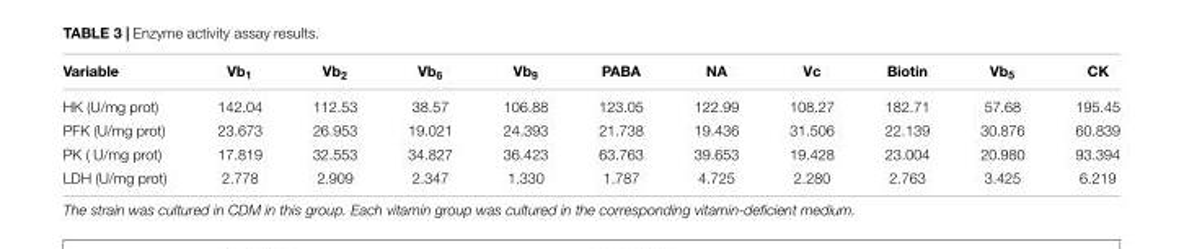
<table><thead><tr><td>Variable</td><td>Vb<sub>1</sub></td><td>Vb<sub>2</sub></td><td>Vb<sub>6</sub></td><td>Vb<sub>9</sub></td><td>PABA</td><td>NA</td><td>Vc</td><td>Biotin</td><td>Vb<sub>5</sub></td><td>CK</td></tr></thead><tbody><tr><td>HK (U/mg prot)</td><td>142.04</td><td>112.53</td><td>38.57</td><td>106.88</td><td>123.05</td><td>122.99</td><td>108.27</td><td>182.71</td><td>57.68</td><td>195.45</td></tr><tr><td>PFK (U/mg prot)</td><td>23.673</td><td>26.953</td><td>19.021</td><td>24.393</td><td>21.738</td><td>19.436</td><td>31.506</td><td>22.139</td><td>30.876</td><td>60.839</td></tr><tr><td>PK ( U/mg prot)</td><td>17.819</td><td>32.553</td><td>34.827</td><td>36.423</td><td>63.763</td><td>39.653</td><td>19.428</td><td>23.004</td><td>20.980</td><td>93.394</td></tr><tr><td>LDH (U/mg prot)</td><td>2.778</td><td>2.909</td><td>2.347</td><td>1.330</td><td>1.787</td><td>4.725</td><td>2.280</td><td>2.763</td><td>3.425</td><td>6.219</td></tr></tbody></table>